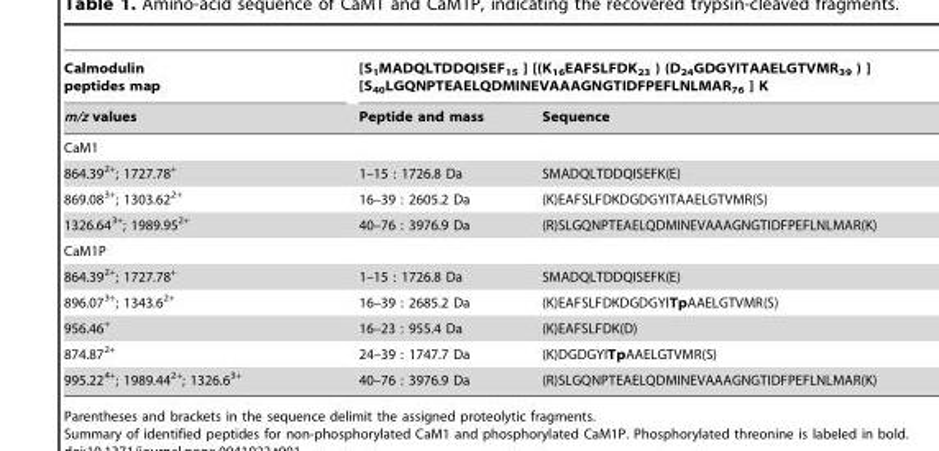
<table><thead><tr><td rowspan="2">Calmodulin peptides map m/z values</td><td colspan="2">[S<sub>1</sub>MADQLTDDQISEF<sub>15</sub> ] [(K<sub>16</sub>EAFSLFDK<sub>23</sub> ) (D<sub>24</sub>GDGYITAAELGTVMR<sub>39</sub> ) ] [S<sub>40</sub>LGQNPTEAELQDMINEVAAAGNGTIDFPEFLNLMAR<sub>76</sub> ] K</td></tr><tr><td>Peptide and mass</td><td>Sequence</td></tr></thead><tbody><tr><td colspan="3">CaM1</td></tr><tr><td>864.39<sup>2+</sup>; 1727.78<sup>+</sup></td><td>1–15 : 1726.8 Da</td><td>SMADQLTDDQISEFK(E)</td></tr><tr><td>869.08<sup>3+</sup>; 1303.62<sup>2+</sup></td><td>16–39 : 2605.2 Da</td><td>(K)EAFSLFDKDGDGYITAAELGTVMR(S)</td></tr><tr><td>1326.64<sup>3+</sup>; 1989.95<sup>2+</sup></td><td>40–76 : 3976.9 Da</td><td>(R)SLGQNPTEAELQDMINEVAAAGNGTIDFPEFLNLMAR(K)</td></tr><tr><td colspan="3">CaM1P</td></tr><tr><td>864.39<sup>2+</sup>; 1727.78<sup>+</sup></td><td>1–15 : 1726.8 Da</td><td>SMADQLTDDQISEFK(E)</td></tr><tr><td>896.07<sup>3+</sup>; 1343.6<sup>2+</sup></td><td>16–39 : 2685.2 Da</td><td>(K)EAFSLFDKDGDGYITpAAELGTVMR(S)</td></tr><tr><td>956.46<sup>+</sup></td><td>16–23 : 955.4 Da</td><td>(K)EAFSLFDK(D)</td></tr><tr><td>874.87<sup>2+</sup></td><td>24–39 : 1747.7 Da</td><td>(K)DGDGYITpAAELGTVMR(S)</td></tr><tr><td>995.22<sup>4+</sup>; 1989.44<sup>2+</sup>; 1326.6<sup>3+</sup></td><td>40–76 : 3976.9 Da</td><td>(R)SLGQNPTEAELQDMINEVAAAGNGTIDFPEFLNLMAR(K)</td></tr></tbody></table>